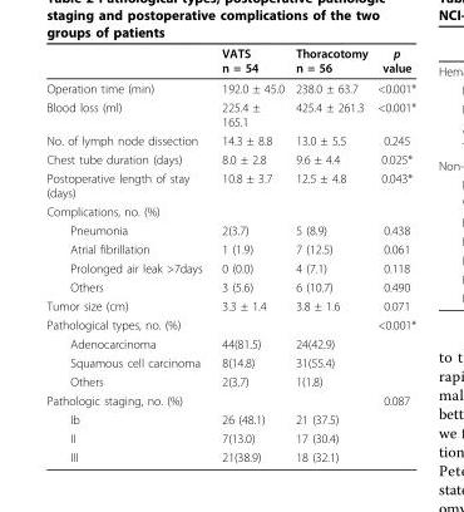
<table><thead><tr><td></td><td>VATS n = 54</td><td>Thoracotomy n = 56</td><td>p value</td></tr></thead><tbody><tr><td>Operation time (min)</td><td>192.0 ± 45.0</td><td>238.0 ± 63.7</td><td>&lt;0.001*</td></tr><tr><td>Blood loss (ml)</td><td>225.4 ± 165.1</td><td>425.4 ± 261.3</td><td>&lt;0.001*</td></tr><tr><td>No. of lymph node dissection</td><td>14.3 ± 8.8</td><td>13.0 ± 5.5</td><td>0.245</td></tr><tr><td>Chest tube duration (days)</td><td>8.0 ± 2.8</td><td>9.6 ± 4.4</td><td>0.025*</td></tr><tr><td>Postoperative length of stay (days)</td><td>10.8 ± 3.7</td><td>12.5 ± 4.8</td><td>0.043*</td></tr><tr><td colspan="4">Complications, no. (%)</td></tr><tr><td>Pneumonia</td><td>2(3.7)</td><td>5 (8.9)</td><td>0.438</td></tr><tr><td>Atrial fibrillation</td><td>1 (1.9)</td><td>7 (12.5)</td><td>0.061</td></tr><tr><td>Prolonged air leak &gt;7days</td><td>0 (0.0)</td><td>4 (7.1)</td><td>0.118</td></tr><tr><td>Others</td><td>3 (5.6)</td><td>6 (10.7)</td><td>0.490</td></tr><tr><td>Tumor size (cm)</td><td>3.3 ± 1.4</td><td>3.8 ± 1.6</td><td>0.071</td></tr><tr><td>Pathological types, no. (%)</td><td></td><td></td><td>&lt;0.001*</td></tr><tr><td>Adenocarcinoma</td><td>44(81.5)</td><td>24(42.9)</td><td></td></tr><tr><td>Squamous cell carcinoma</td><td>8(14.8)</td><td>31(55.4)</td><td></td></tr><tr><td>Others</td><td>2(3.7)</td><td>1(1.8)</td><td></td></tr><tr><td>Pathologic staging, no. (%)</td><td></td><td></td><td>0.087</td></tr><tr><td>Ib</td><td>26 (48.1)</td><td>21 (37.5)</td><td></td></tr><tr><td>II</td><td>7(13.0)</td><td>17 (30.4)</td><td></td></tr><tr><td>III</td><td>21(38.9)</td><td>18 (32.1)</td><td></td></tr></tbody></table>